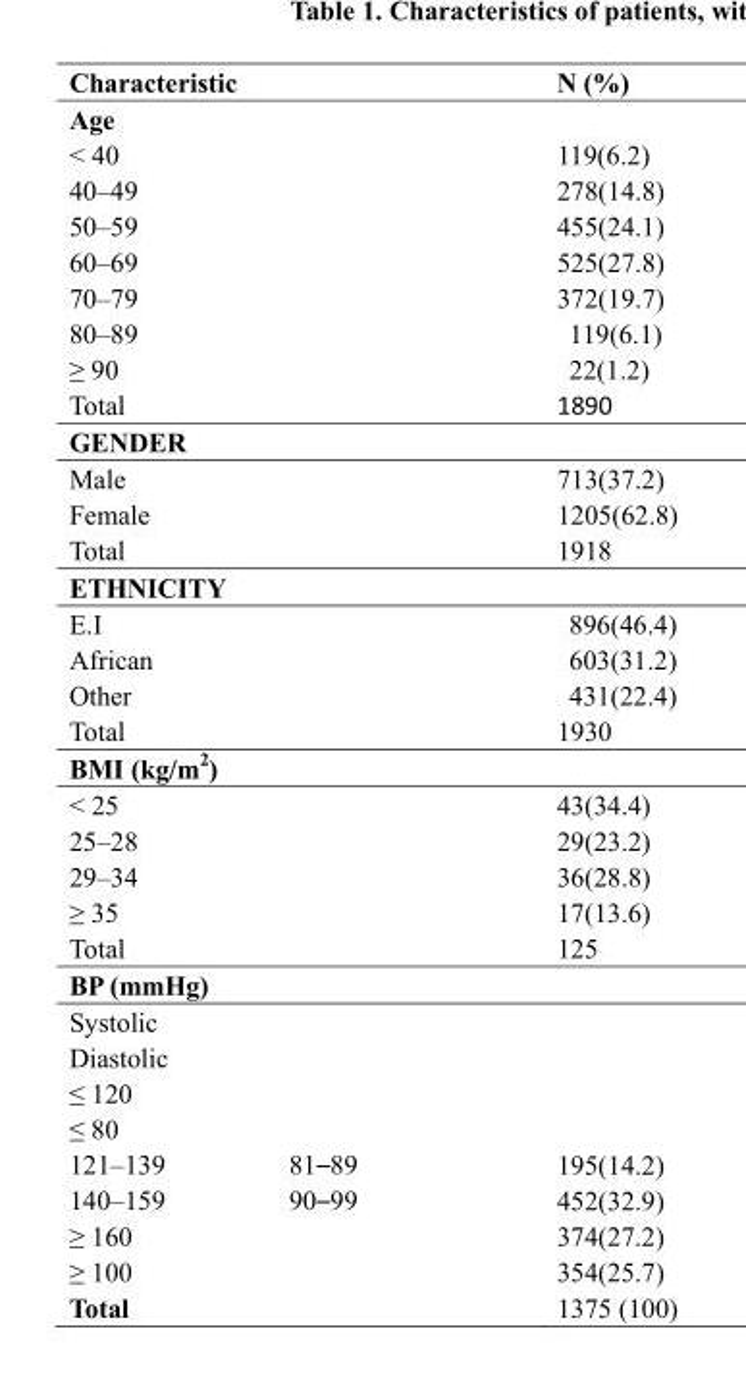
<table><thead><tr><td>Characteristic</td><td></td><td>N (%)</td></tr></thead><tbody><tr><td colspan="3">Age</td></tr><tr><td>&lt; 40</td><td></td><td>119(6.2)</td></tr><tr><td>40–49</td><td></td><td>278(14.8)</td></tr><tr><td>50–59</td><td></td><td>455(24.1)</td></tr><tr><td>60–69</td><td></td><td>525(27.8)</td></tr><tr><td>70–79</td><td></td><td>372(19.7)</td></tr><tr><td>80–89</td><td></td><td>119(6.1)</td></tr><tr><td>≥ 90</td><td></td><td>22(1.2)</td></tr><tr><td>Total</td><td></td><td>1890</td></tr><tr><td colspan="3">GENDER</td></tr><tr><td>Male</td><td></td><td>713(37.2)</td></tr><tr><td>Female</td><td></td><td>1205(62.8)</td></tr><tr><td>Total</td><td></td><td>1918</td></tr><tr><td colspan="3">ETHNICITY</td></tr><tr><td>E.I</td><td></td><td>896(46.4)</td></tr><tr><td>African</td><td></td><td>603(31.2)</td></tr><tr><td>Other</td><td></td><td>431(22.4)</td></tr><tr><td>Total</td><td></td><td>1930</td></tr><tr><td colspan="3">BMI (kg/m<sup>2</sup>)</td></tr><tr><td>&lt; 25</td><td></td><td>43(34.4)</td></tr><tr><td>25–28</td><td></td><td>29(23.2)</td></tr><tr><td>29–34</td><td></td><td>36(28.8)</td></tr><tr><td>≥ 35</td><td></td><td>17(13.6)</td></tr><tr><td>Total</td><td></td><td>125</td></tr><tr><td colspan="3">BP (mmHg)</td></tr><tr><td colspan="3">Systolic</td></tr><tr><td colspan="3">Diastolic</td></tr><tr><td colspan="3">≤ 120</td></tr><tr><td colspan="3">≤ 80</td></tr><tr><td>121–139</td><td>81–89</td><td>195(14.2)</td></tr><tr><td>140–159</td><td>90–99</td><td>452(32.9)</td></tr><tr><td>≥ 160</td><td></td><td>374(27.2)</td></tr><tr><td>≥ 100</td><td></td><td>354(25.7)</td></tr><tr><td>Total</td><td></td><td>1375 (100)</td></tr></tbody></table>